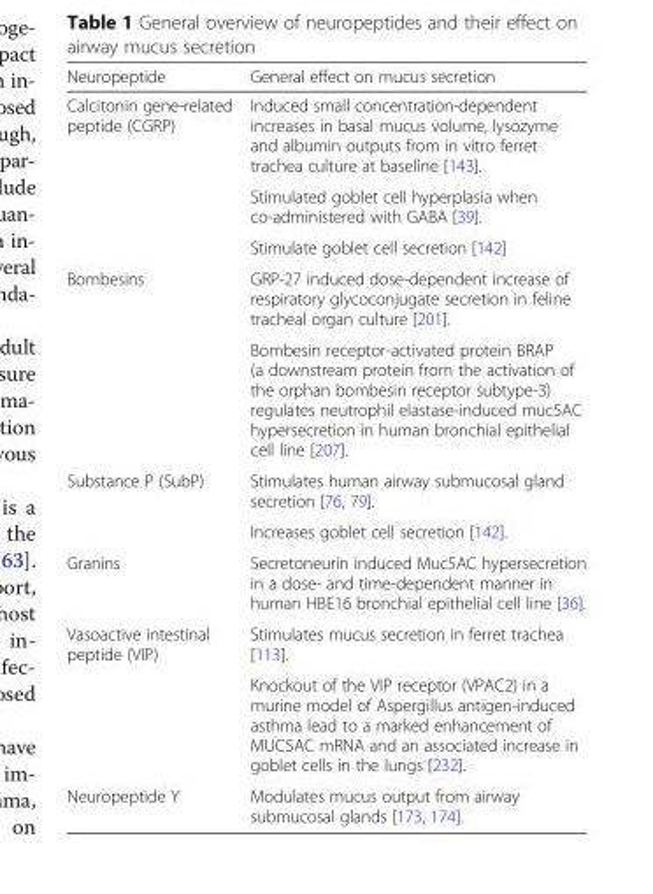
<table><thead><tr><td>Neuropeptide</td><td>General effect on mucus secretion</td></tr></thead><tbody><tr><td rowspan="3">Calcitonin gene-related peptide (CGRP)</td><td>Induced small concentration-dependent increases in basal mucus volume, lysozyme and albumin outputs from in vitro ferret trachea culture at baseline [143].</td></tr><tr><td>Stimulated goblet cell hyperplasia when co-administered with GABA [39].</td></tr><tr><td>Stimulate goblet cell secretion [142]</td></tr><tr><td rowspan="2">Bombesins</td><td>GRP-27 induced dose-dependent increase of respiratory glycoconjugate secretion in feline tracheal organ culture [201].</td></tr><tr><td>Bombesin receptor-activated protein BRAP (a downstream protein from the activation of the orphan bombesin receptor subtype-3) regulates neutrophil elastase-induced muc5AC hypersecretion in human bronchial epithelial cell line [207].</td></tr><tr><td rowspan="2">Substance P (SubP)</td><td>Stimulates human airway submucosal gland secretion [76, 79].</td></tr><tr><td>Increases goblet cell secretion [142].</td></tr><tr><td>Granins</td><td>Secretoneurin induced Muc5AC hypersecretion in a dose- and time-dependent manner in human HBE16 bronchial epithelial cell line [36].</td></tr><tr><td rowspan="2">Vasoactive intestinal peptide (VIP)</td><td>Stimulates mucus secretion in ferret trachea [113].</td></tr><tr><td>Knockout of the VIP receptor (VPAC2) in a murine model of Aspergillus antigen-induced asthma lead to a marked enhancement of MUC5AC mRNA and an associated increase in goblet cells in the lungs [232].</td></tr><tr><td>Neuropeptide Y</td><td>Modulates mucus output from airway submucosal glands [173, 174].</td></tr></tbody></table>